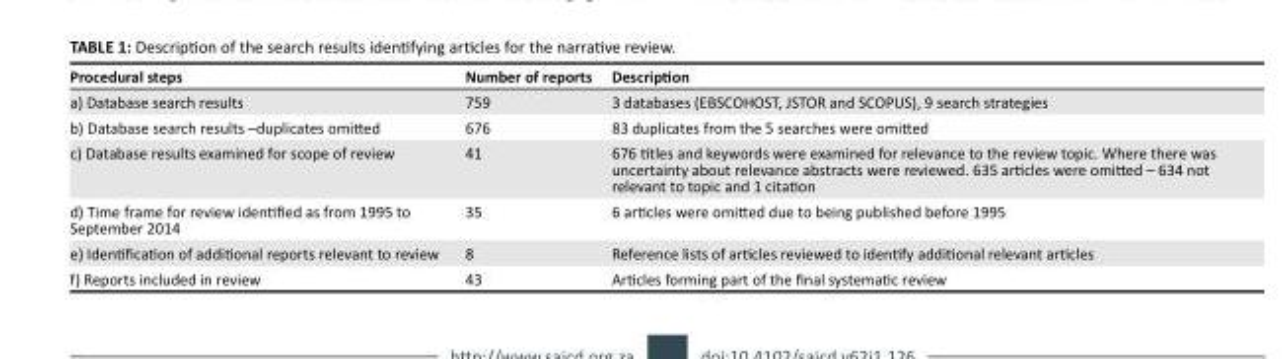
<table><thead><tr><td>Procedural steps</td><td>Number of reports</td><td>Description</td></tr></thead><tbody><tr><td>a) Database search results</td><td>759</td><td>3 databases (EBSCOHOST, JSTOR and SCOPUS), 9 search strategies</td></tr><tr><td>b) Database search results –duplicates omitted</td><td>676</td><td>83 duplicates from the 5 searches were omitted</td></tr><tr><td>c) Database results examined for scope of review</td><td>41</td><td>676 titles and keywords were examined for relevance to the review topic. Where there was uncertainty about relevance abstracts were reviewed. 635 articles were omitted – 634 not relevant to topic and 1 citation</td></tr><tr><td>d) Time frame for review identified as from 1995 to September 2014</td><td>35</td><td>6 articles were omitted due to being published before 1995</td></tr><tr><td>e) Identification of additional reports relevant to review</td><td>8</td><td>Reference lists of articles reviewed to identify additional relevant articles</td></tr><tr><td>f) Reports included in review</td><td>43</td><td>Articles forming part of the final systematic review</td></tr></tbody></table>